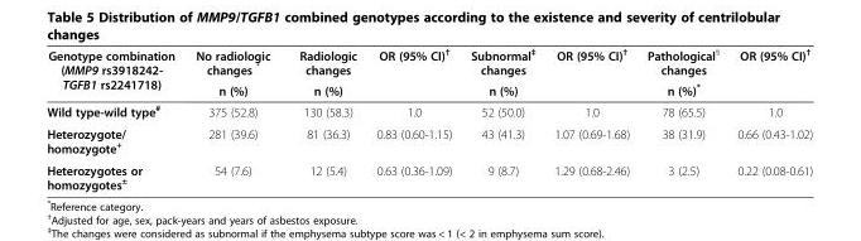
<table><thead><tr><td rowspan="2">Genotype combination (MMP9 rs3918242- TGFB1 rs2241718)</td><td rowspan="2">No radiologic changes * n (%)</td><td rowspan="2">Radiologic changes n (%)</td><td rowspan="2">OR (95% CI)<sup>†</sup></td><td rowspan="2">Subnormal‡ changes n (%)</td><td rowspan="2">OR (95% CI)<sup>†</sup></td><td rowspan="2">Pathological§ changes n (%)*</td><td rowspan="2">OR (95% CI)<sup>†</sup></td></tr><tr></tr></thead><tbody><tr><td>Wild type-wild type<sup>#</sup></td><td>375 (52.8)</td><td>130 (58.3)</td><td>1.0</td><td>52 (50.0)</td><td>1.0</td><td>78 (65.5)</td><td>1.0</td></tr><tr><td>Heterozygote/ homozygote<sup>+</sup></td><td>281 (39.6)</td><td>81 (36.3)</td><td>0.83 (0.60-1.15)</td><td>43 (41.3)</td><td>1.07 (0.69-1.68)</td><td>38 (31.9)</td><td>0.66 (0.43-1.02)</td></tr><tr><td>Heterozygotes or homozygotes<sup>±</sup></td><td>54 (7.6)</td><td>12 (5.4)</td><td>0.63 (0.36-1.09)</td><td>9 (8.7)</td><td>1.29 (0.68-2.46)</td><td>3 (2.5)</td><td>0.22 (0.08-0.61)</td></tr></tbody></table>